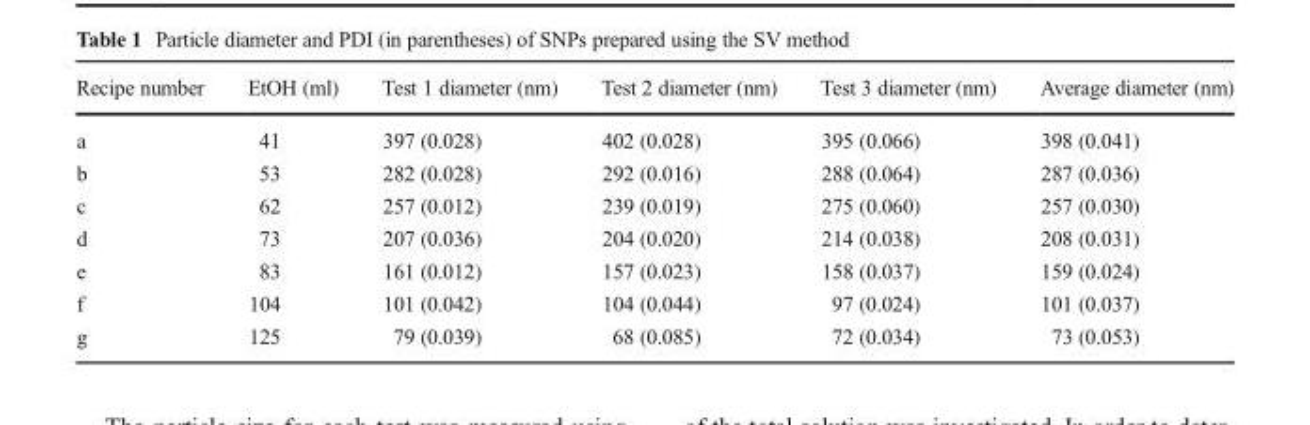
<table><thead><tr><td>Recipe number</td><td>EtOH (ml)</td><td>Test 1 diameter (nm)</td><td>Test 2 diameter (nm)</td><td>Test 3 diameter (nm)</td><td>Average diameter (nm)</td></tr></thead><tbody><tr><td>a</td><td>41</td><td>397 (0.028)</td><td>402 (0.028)</td><td>395 (0.066)</td><td>398 (0.041)</td></tr><tr><td>b</td><td>53</td><td>282 (0.028)</td><td>292 (0.016)</td><td>288 (0.064)</td><td>287 (0.036)</td></tr><tr><td>c</td><td>62</td><td>257 (0.012)</td><td>239 (0.019)</td><td>275 (0.060)</td><td>257 (0.030)</td></tr><tr><td>d</td><td>73</td><td>207 (0.036)</td><td>204 (0.020)</td><td>214 (0.038)</td><td>208 (0.031)</td></tr><tr><td>e</td><td>83</td><td>161 (0.012)</td><td>157 (0.023)</td><td>158 (0.037)</td><td>159 (0.024)</td></tr><tr><td>f</td><td>104</td><td>101 (0.042)</td><td>104 (0.044)</td><td>97 (0.024)</td><td>101 (0.037)</td></tr><tr><td>g</td><td>125</td><td>79 (0.039)</td><td>68 (0.085)</td><td>72 (0.034)</td><td>73 (0.053)</td></tr></tbody></table>